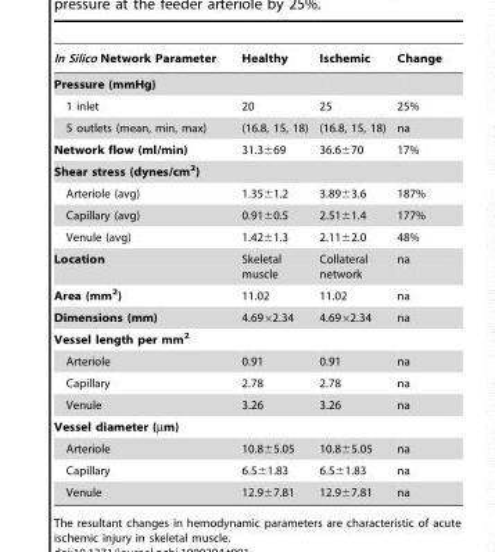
<table><thead><tr><td>In Silico Network Parameter</td><td>Healthy</td><td>Ischemic</td><td>Change</td></tr></thead><tbody><tr><td colspan="4">Pressure (mmHg)</td></tr><tr><td>1 inlet</td><td>20</td><td>25</td><td>25%</td></tr><tr><td>5 outlets (mean, min, max)</td><td>(16.8, 15, 18)</td><td>(16.8, 15, 18)</td><td>na</td></tr><tr><td>Network flow (ml/min)</td><td>31.3±69</td><td>36.6±70</td><td>17%</td></tr><tr><td colspan="4">Shear stress (dynes/cm<sup>2</sup>)</td></tr><tr><td>Arteriole (avg)</td><td>1.35±1.2</td><td>3.89±3.6</td><td>187%</td></tr><tr><td>Capillary (avg)</td><td>0.91±0.5</td><td>2.51±1.4</td><td>177%</td></tr><tr><td>Venule (avg)</td><td>1.42±1.3</td><td>2.11±2.0</td><td>48%</td></tr><tr><td>Location</td><td>Skeletal muscle</td><td>Collateral network</td><td>na</td></tr><tr><td>Area (mm<sup>2</sup>)</td><td>11.02</td><td>11.02</td><td>na</td></tr><tr><td>Dimensions (mm)</td><td>4.69×2.34</td><td>4.69×2.34</td><td>na</td></tr><tr><td colspan="4">Vessel length per mm<sup>2</sup></td></tr><tr><td>Arteriole</td><td>0.91</td><td>0.91</td><td>na</td></tr><tr><td>Capillary</td><td>2.78</td><td>2.78</td><td>na</td></tr><tr><td>Venule</td><td>3.26</td><td>3.26</td><td>na</td></tr><tr><td colspan="4">Vessel diameter (µm)</td></tr><tr><td>Arteriole</td><td>10.8±5.05</td><td>10.8±5.05</td><td>na</td></tr><tr><td>Capillary</td><td>6.5±1.83</td><td>6.5±1.83</td><td>na</td></tr><tr><td>Venule</td><td>12.9±7.81</td><td>12.9±7.81</td><td>na</td></tr></tbody></table>